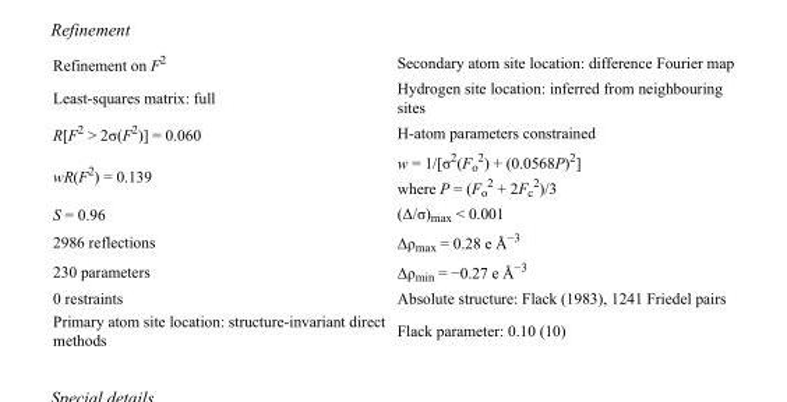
<table><tbody><tr><td>Refinement on F<sup>2</sup></td><td>Secondary atom site location: difference Fourier map</td></tr><tr><td>Least-squares matrix: full</td><td>Hydrogen site location: inferred from neighbouring sites</td></tr><tr><td>R[F<sup>2</sup> &gt; 2σ(F<sup>2</sup>)] = 0.060</td><td>H-atom parameters constrained</td></tr><tr><td>wR(F<sup>2</sup>) = 0.139</td><td>w = 1/[σ<sup>2</sup>(F<sub>o</sub> <sup>2</sup>) + (0.0568P)<sup>2</sup>] where P = (F<sub>o</sub> <sup>2</sup> + 2F<sub>c</sub> <sup>2</sup>)/3</td></tr><tr><td>S = 0.96</td><td>(Δ/σ)<sub>max</sub> &lt; 0.001</td></tr><tr><td>2986 reflections</td><td>Δρ<sub>max</sub> = 0.28 e Å<sup>−3</sup></td></tr><tr><td>230 parameters</td><td>Δρ<sub>min</sub> = −0.27 e Å<sup>−3</sup></td></tr><tr><td>0 restraints</td><td>Absolute structure: Flack (1983), 1241 Friedel pairs</td></tr><tr><td>Primary atom site location: structure-invariant direct methods</td><td>Flack parameter: 0.10 (10)</td></tr></tbody></table>